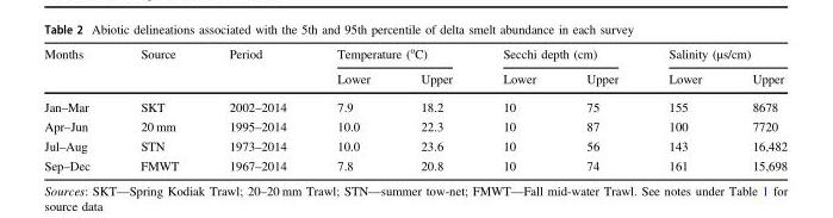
<table><thead><tr><td rowspan="2">Months</td><td rowspan="2">Source</td><td rowspan="2">Period</td><td colspan="2">Temperature (<sup>o</sup>C)</td><td colspan="2">Secchi depth (cm)</td><td colspan="2">Salinity (μs/cm)</td></tr><tr><td>Lower</td><td>Upper</td><td>Lower</td><td>Upper</td><td>Lower</td><td>Upper</td></tr></thead><tbody><tr><td>Jan–Mar</td><td>SKT</td><td>2002–2014</td><td>7.9</td><td>18.2</td><td>10</td><td>75</td><td>155</td><td>8678</td></tr><tr><td>Apr–Jun</td><td>20 mm</td><td>1995–2014</td><td>10.0</td><td>22.3</td><td>10</td><td>87</td><td>100</td><td>7720</td></tr><tr><td>Jul–Aug</td><td>STN</td><td>1973–2014</td><td>10.0</td><td>23.6</td><td>10</td><td>56</td><td>143</td><td>16,482</td></tr><tr><td>Sep–Dec</td><td>FMWT</td><td>1967–2014</td><td>7.8</td><td>20.8</td><td>10</td><td>74</td><td>161</td><td>15,698</td></tr></tbody></table>